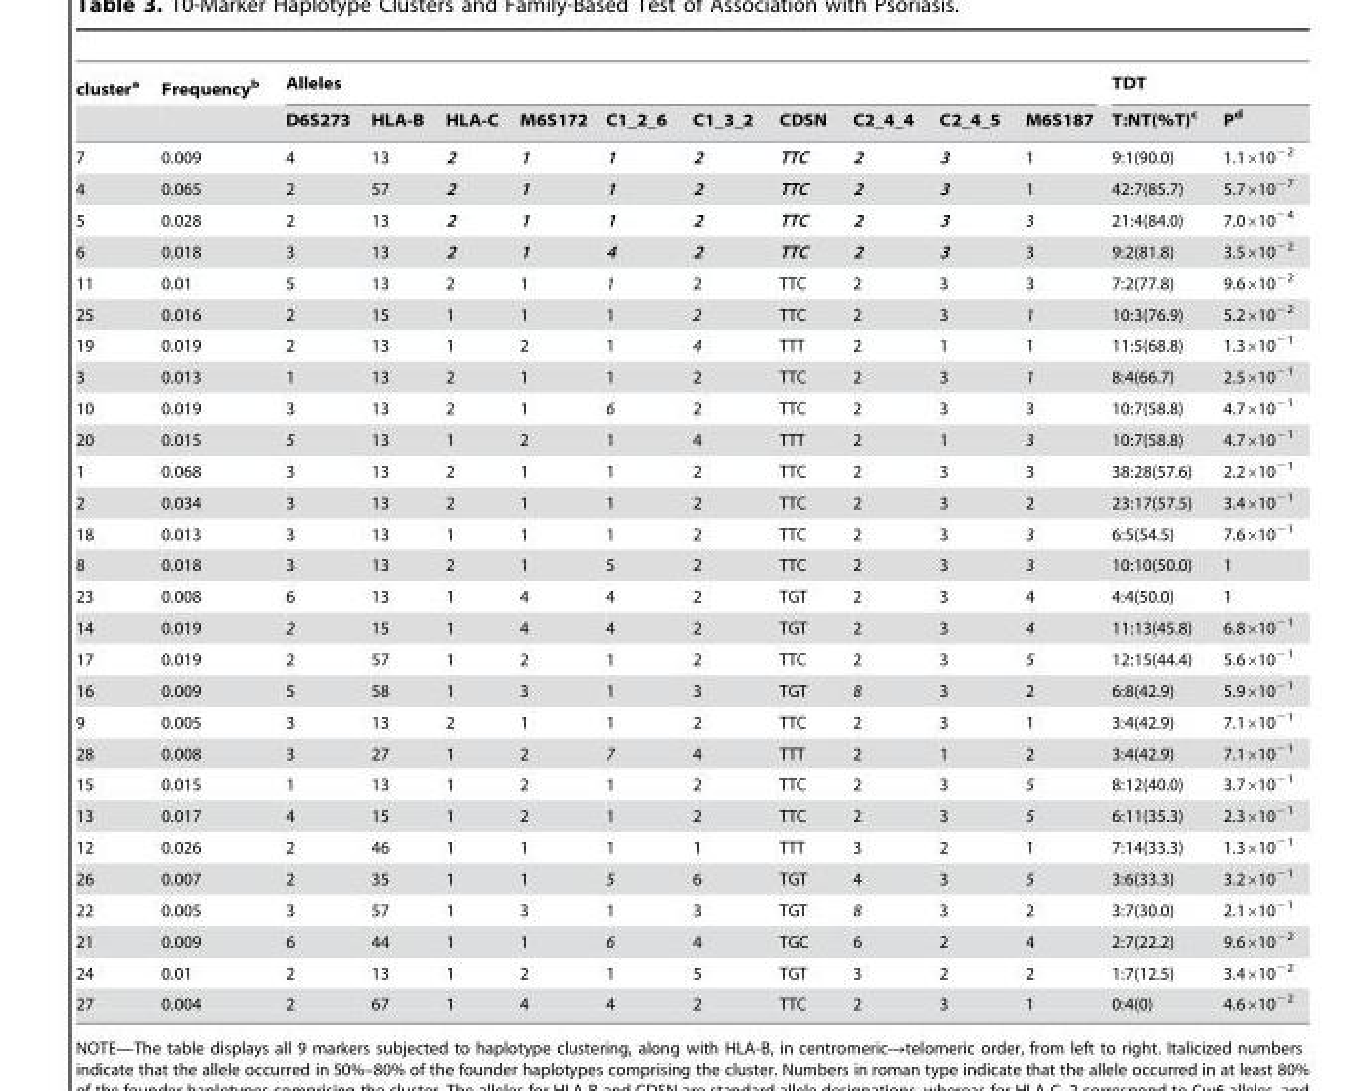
<table><thead><tr><td rowspan="2">cluster<sup>a</sup></td><td rowspan="2">Frequency<sup>b</sup></td><td colspan="10">Alleles</td><td colspan="2">TDT</td></tr><tr><td>D6S273</td><td>HLA-B</td><td>HLA-C</td><td>M6S172</td><td>C1_2_6</td><td>C1_3_2</td><td>CDSN</td><td>C2_4_4</td><td>C2_4_5</td><td>M6S187</td><td>T:NT(%T)c</td><td>P<sup>d</sup></td></tr></thead><tbody><tr><td>7</td><td>0.009</td><td>4</td><td>13</td><td>2</td><td>1</td><td>1</td><td>2</td><td>TTC</td><td>2</td><td>3</td><td>1</td><td>9:1(90.0)</td><td>1.1×10<sup>−2</sup></td></tr><tr><td>4</td><td>0.065</td><td>2</td><td>57</td><td>2</td><td>1</td><td>1</td><td>2</td><td>TTC</td><td>2</td><td>3</td><td>1</td><td>42:7(85.7)</td><td>5.7×10<sup>−7</sup></td></tr><tr><td>5</td><td>0.028</td><td>2</td><td>13</td><td>2</td><td>1</td><td>1</td><td>2</td><td>TTC</td><td>2</td><td>3</td><td>3</td><td>21:4(84.0)</td><td>7.0×10<sup>−4</sup></td></tr><tr><td>6</td><td>0.018</td><td>3</td><td>13</td><td>2</td><td>1</td><td>4</td><td>2</td><td>TTC</td><td>2</td><td>3</td><td>3</td><td>9:2(81.8)</td><td>3.5×10<sup>−2</sup></td></tr><tr><td>11</td><td>0.01</td><td>5</td><td>13</td><td>2</td><td>1</td><td>1</td><td>2</td><td>TTC</td><td>2</td><td>3</td><td>3</td><td>7:2(77.8)</td><td>9.6×10<sup>−2</sup></td></tr><tr><td>25</td><td>0.016</td><td>2</td><td>15</td><td>1</td><td>1</td><td>1</td><td>2</td><td>TTC</td><td>2</td><td>3</td><td>1</td><td>10:3(76.9)</td><td>5.2×10<sup>−2</sup></td></tr><tr><td>19</td><td>0.019</td><td>2</td><td>13</td><td>1</td><td>2</td><td>1</td><td>4</td><td>TTT</td><td>2</td><td>1</td><td>1</td><td>11:5(68.8)</td><td>1.3×10<sup>−1</sup></td></tr><tr><td>3</td><td>0.013</td><td>1</td><td>13</td><td>2</td><td>1</td><td>1</td><td>2</td><td>TTC</td><td>2</td><td>3</td><td>1</td><td>8:4(66.7)</td><td>2.5×10<sup>−1</sup></td></tr><tr><td>10</td><td>0.019</td><td>3</td><td>13</td><td>2</td><td>1</td><td>6</td><td>2</td><td>TTC</td><td>2</td><td>3</td><td>3</td><td>10:7(58.8)</td><td>4.7×10<sup>−1</sup></td></tr><tr><td>20</td><td>0.015</td><td>5</td><td>13</td><td>1</td><td>2</td><td>1</td><td>4</td><td>TTT</td><td>2</td><td>1</td><td>3</td><td>10:7(58.8)</td><td>4.7×10<sup>−1</sup></td></tr><tr><td>1</td><td>0.068</td><td>3</td><td>13</td><td>2</td><td>1</td><td>1</td><td>2</td><td>TTC</td><td>2</td><td>3</td><td>3</td><td>38:28(57.6)</td><td>2.2×10<sup>−1</sup></td></tr><tr><td>2</td><td>0.034</td><td>3</td><td>13</td><td>2</td><td>1</td><td>1</td><td>2</td><td>TTC</td><td>2</td><td>3</td><td>2</td><td>23:17(57.5)</td><td>3.4×10<sup>−1</sup></td></tr><tr><td>18</td><td>0.013</td><td>3</td><td>13</td><td>1</td><td>1</td><td>1</td><td>2</td><td>TTC</td><td>2</td><td>3</td><td>3</td><td>6:5(54.5)</td><td>7.6×10<sup>−1</sup></td></tr><tr><td>8</td><td>0.018</td><td>3</td><td>13</td><td>2</td><td>1</td><td>5</td><td>2</td><td>TTC</td><td>2</td><td>3</td><td>3</td><td>10:10(50.0)</td><td>1</td></tr><tr><td>23</td><td>0.008</td><td>6</td><td>13</td><td>1</td><td>4</td><td>4</td><td>2</td><td>TGT</td><td>2</td><td>3</td><td>4</td><td>4:4(50.0)</td><td>1</td></tr><tr><td>14</td><td>0.019</td><td>2</td><td>15</td><td>1</td><td>4</td><td>4</td><td>2</td><td>TGT</td><td>2</td><td>3</td><td>4</td><td>11:13(45.8)</td><td>6.8×10<sup>−1</sup></td></tr><tr><td>17</td><td>0.019</td><td>2</td><td>57</td><td>1</td><td>2</td><td>1</td><td>2</td><td>TTC</td><td>2</td><td>3</td><td>5</td><td>12:15(44.4)</td><td>5.6×10<sup>−1</sup></td></tr><tr><td>16</td><td>0.009</td><td>5</td><td>58</td><td>1</td><td>3</td><td>1</td><td>3</td><td>TGT</td><td>8</td><td>3</td><td>2</td><td>6:8(42.9)</td><td>5.9×10<sup>−1</sup></td></tr><tr><td>9</td><td>0.005</td><td>3</td><td>13</td><td>2</td><td>1</td><td>1</td><td>2</td><td>TTC</td><td>2</td><td>3</td><td>1</td><td>3:4(42.9)</td><td>7.1×10<sup>−1</sup></td></tr><tr><td>28</td><td>0.008</td><td>3</td><td>27</td><td>1</td><td>2</td><td>7</td><td>4</td><td>TTT</td><td>2</td><td>1</td><td>2</td><td>3:4(42.9)</td><td>7.1×10<sup>−1</sup></td></tr><tr><td>15</td><td>0.015</td><td>1</td><td>13</td><td>1</td><td>2</td><td>1</td><td>2</td><td>TTC</td><td>2</td><td>3</td><td>5</td><td>8:12(40.0)</td><td>3.7×10<sup>−1</sup></td></tr><tr><td>13</td><td>0.017</td><td>4</td><td>15</td><td>1</td><td>2</td><td>1</td><td>2</td><td>TTC</td><td>2</td><td>3</td><td>5</td><td>6:11(35.3)</td><td>2.3×10<sup>−1</sup></td></tr><tr><td>12</td><td>0.026</td><td>2</td><td>46</td><td>1</td><td>1</td><td>1</td><td>1</td><td>TTT</td><td>3</td><td>2</td><td>1</td><td>7:14(33.3)</td><td>1.3×10<sup>−1</sup></td></tr><tr><td>26</td><td>0.007</td><td>2</td><td>35</td><td>1</td><td>1</td><td>5</td><td>6</td><td>TGT</td><td>4</td><td>3</td><td>5</td><td>3:6(33.3)</td><td>3.2×10<sup>−1</sup></td></tr><tr><td>22</td><td>0.005</td><td>3</td><td>57</td><td>1</td><td>3</td><td>1</td><td>3</td><td>TGT</td><td>8</td><td>3</td><td>2</td><td>3:7(30.0)</td><td>2.1×10<sup>−1</sup></td></tr><tr><td>21</td><td>0.009</td><td>6</td><td>44</td><td>1</td><td>1</td><td>6</td><td>4</td><td>TGC</td><td>6</td><td>2</td><td>4</td><td>2:7(22.2)</td><td>9.6×10<sup>−2</sup></td></tr><tr><td>24</td><td>0.01</td><td>2</td><td>13</td><td>1</td><td>2</td><td>1</td><td>5</td><td>TGT</td><td>3</td><td>2</td><td>2</td><td>1:7(12.5)</td><td>3.4×10<sup>−2</sup></td></tr><tr><td>27</td><td>0.004</td><td>2</td><td>67</td><td>1</td><td>4</td><td>4</td><td>2</td><td>TTC</td><td>2</td><td>3</td><td>1</td><td>0:4(0)</td><td>4.6×10<sup>−2</sup></td></tr></tbody></table>